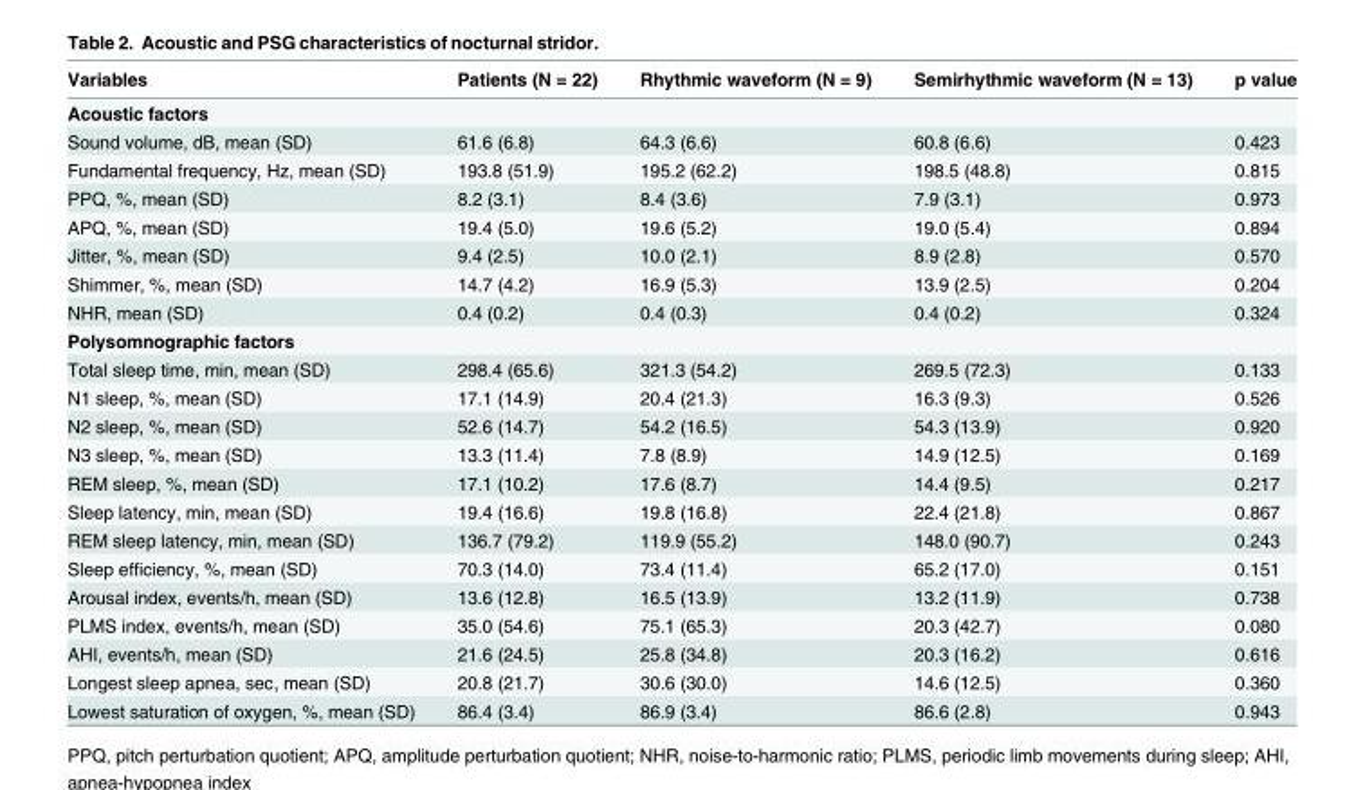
<table><thead><tr><td>Variables</td><td>Patients (N = 22)</td><td>Rhythmic waveform (N = 9)</td><td>Semirhythmic waveform (N = 13)</td><td>p value</td></tr></thead><tbody><tr><td colspan="5">Acoustic factors</td></tr><tr><td>Sound volume, dB, mean (SD)</td><td>61.6 (6.8)</td><td>64.3 (6.6)</td><td>60.8 (6.6)</td><td>0.423</td></tr><tr><td>Fundamental frequency, Hz, mean (SD)</td><td>193.8 (51.9)</td><td>195.2 (62.2)</td><td>198.5 (48.8)</td><td>0.815</td></tr><tr><td>PPQ, %, mean (SD)</td><td>8.2 (3.1)</td><td>8.4 (3.6)</td><td>7.9 (3.1)</td><td>0.973</td></tr><tr><td>APQ, %, mean (SD)</td><td>19.4 (5.0)</td><td>19.6 (5.2)</td><td>19.0 (5.4)</td><td>0.894</td></tr><tr><td>Jitter, %, mean (SD)</td><td>9.4 (2.5)</td><td>10.0 (2.1)</td><td>8.9 (2.8)</td><td>0.570</td></tr><tr><td>Shimmer, %, mean (SD)</td><td>14.7 (4.2)</td><td>16.9 (5.3)</td><td>13.9 (2.5)</td><td>0.204</td></tr><tr><td>NHR, mean (SD)</td><td>0.4 (0.2)</td><td>0.4 (0.3)</td><td>0.4 (0.2)</td><td>0.324</td></tr><tr><td colspan="5">Polysomnographic factors</td></tr><tr><td>Total sleep time, min, mean (SD)</td><td>298.4 (65.6)</td><td>321.3 (54.2)</td><td>269.5 (72.3)</td><td>0.133</td></tr><tr><td>N1 sleep, %, mean (SD)</td><td>17.1 (14.9)</td><td>20.4 (21.3)</td><td>16.3 (9.3)</td><td>0.526</td></tr><tr><td>N2 sleep, %, mean (SD)</td><td>52.6 (14.7)</td><td>54.2 (16.5)</td><td>54.3 (13.9)</td><td>0.920</td></tr><tr><td>N3 sleep, %, mean (SD)</td><td>13.3 (11.4)</td><td>7.8 (8.9)</td><td>14.9 (12.5)</td><td>0.169</td></tr><tr><td>REM sleep, %, mean (SD)</td><td>17.1 (10.2)</td><td>17.6 (8.7)</td><td>14.4 (9.5)</td><td>0.217</td></tr><tr><td>Sleep latency, min, mean (SD)</td><td>19.4 (16.6)</td><td>19.8 (16.8)</td><td>22.4 (21.8)</td><td>0.867</td></tr><tr><td>REM sleep latency, min, mean (SD)</td><td>136.7 (79.2)</td><td>119.9 (55.2)</td><td>148.0 (90.7)</td><td>0.243</td></tr><tr><td>Sleep efficiency, %, mean (SD)</td><td>70.3 (14.0)</td><td>73.4 (11.4)</td><td>65.2 (17.0)</td><td>0.151</td></tr><tr><td>Arousal index, events/h, mean (SD)</td><td>13.6 (12.8)</td><td>16.5 (13.9)</td><td>13.2 (11.9)</td><td>0.738</td></tr><tr><td>PLMS index, events/h, mean (SD)</td><td>35.0 (54.6)</td><td>75.1 (65.3)</td><td>20.3 (42.7)</td><td>0.080</td></tr><tr><td>AHI, events/h, mean (SD)</td><td>21.6 (24.5)</td><td>25.8 (34.8)</td><td>20.3 (16.2)</td><td>0.616</td></tr><tr><td>Longest sleep apnea, sec, mean (SD)</td><td>20.8 (21.7)</td><td>30.6 (30.0)</td><td>14.6 (12.5)</td><td>0.360</td></tr><tr><td>Lowest saturation of oxygen, %, mean (SD)</td><td>86.4 (3.4)</td><td>86.9 (3.4)</td><td>86.6 (2.8)</td><td>0.943</td></tr></tbody></table>